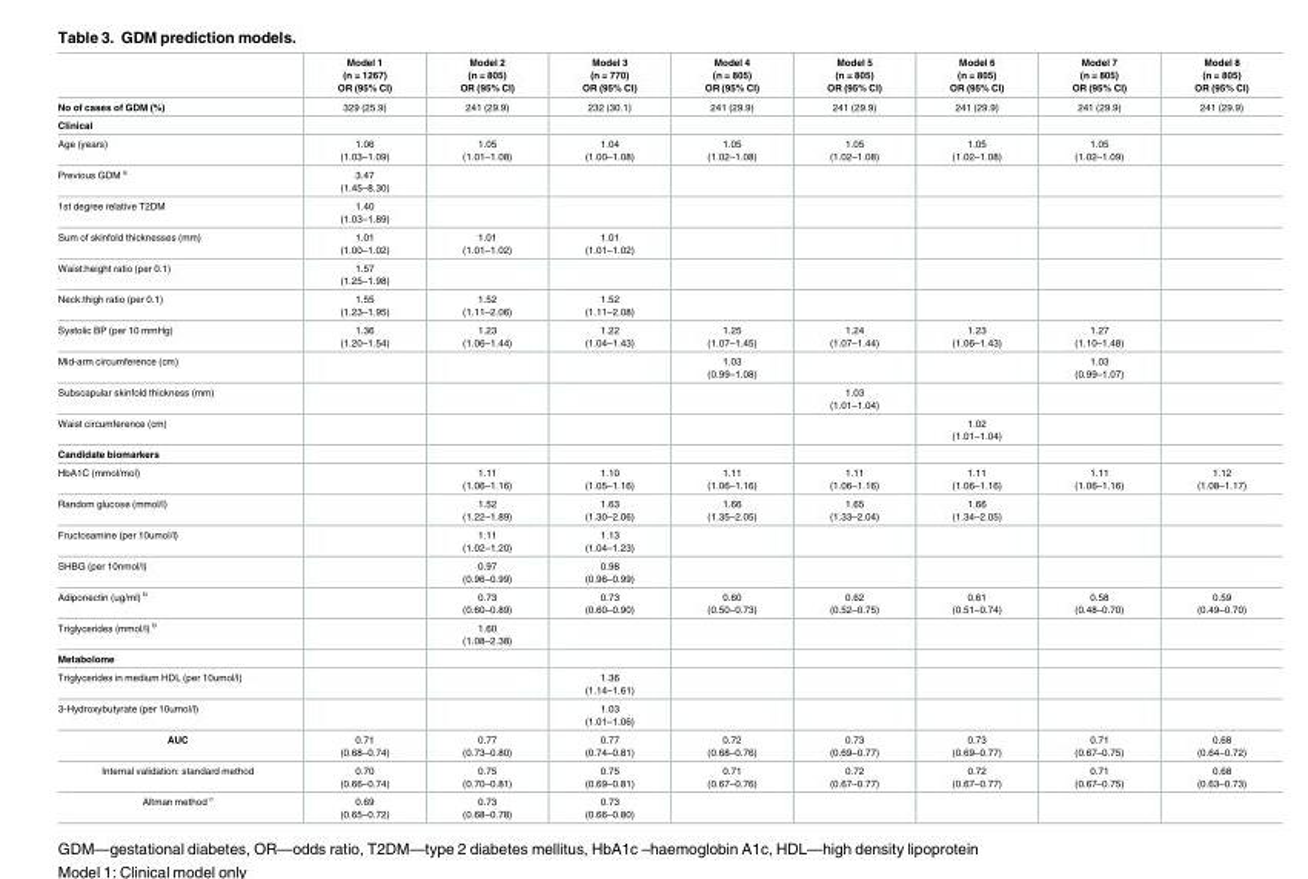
<table><thead><tr><td></td><td>Model 1 (n = 1267) OR (95% CI)</td><td>Model 2 (n = 805) OR (95% CI)</td><td>Model 3 (n = 770) OR (95% CI)</td><td>Model 4 (n = 805) OR (95% CI)</td><td>Model 5 (n = 805) OR (95% CI)</td><td>Model 6 (n = 805) OR (95% CI)</td><td>Model 7 (n = 805) OR (95% CI)</td><td>Model 8 (n = 805) OR (95% CI)</td></tr></thead><tbody><tr><td>No of cases of GDM (%)</td><td>329 (25.9)</td><td>241 (29.9)</td><td>232 (30.1)</td><td>241 (29.9)</td><td>241 (29.9)</td><td>241 (29.9)</td><td>241 (29.9)</td><td>241 (29.9)</td></tr><tr><td colspan="9">Clinical</td></tr><tr><td>Age (years)</td><td>1.06 (1.03–1.09)</td><td>1.05 (1.01–1.08)</td><td>1.04 (1.00–1.08)</td><td>1.05 (1.02–1.08)</td><td>1.05 (1.02–1.08)</td><td>1.05 (1.02–1.08)</td><td>1.05 (1.02–1.09)</td><td></td></tr><tr><td>Previous GDM <sup>a</sup></td><td>3.47 (1.45–8.30)</td><td></td><td></td><td></td><td></td><td></td><td></td><td></td></tr><tr><td>1st degree relative T2DM</td><td>1.40 (1.03–1.89)</td><td></td><td></td><td></td><td></td><td></td><td></td><td></td></tr><tr><td>Sum of skinfold thicknesses (mm)</td><td>1.01 (1.00–1.02)</td><td>1.01 (1.01–1.02)</td><td>1.01 (1.01–1.02)</td><td></td><td></td><td></td><td></td><td></td></tr><tr><td>Waist:height ratio (per 0.1)</td><td>1.57 (1.25–1.98)</td><td></td><td></td><td></td><td></td><td></td><td></td><td></td></tr><tr><td>Neck:thigh ratio (per 0.1)</td><td>1.55 (1.23–1.95)</td><td>1.52 (1.11–2.06)</td><td>1.52 (1.11–2.08)</td><td></td><td></td><td></td><td></td><td></td></tr><tr><td>Systolic BP (per 10 mmHg)</td><td>1.36 (1.20–1.54)</td><td>1.23 (1.06–1.44)</td><td>1.22 (1.04–1.43)</td><td>1.25 (1.07–1.45)</td><td>1.24 (1.07–1.44)</td><td>1.23 (1.06–1.43)</td><td>1.27 (1.10–1.48)</td><td></td></tr><tr><td>Mid-arm circumference (cm)</td><td></td><td></td><td></td><td>1.03 (0.99–1.08)</td><td></td><td></td><td>1.03 (0.99–1.07)</td><td></td></tr><tr><td>Subscapular skinfold thickness (mm)</td><td></td><td></td><td></td><td></td><td>1.03 (1.01–1.04)</td><td></td><td></td><td></td></tr><tr><td>Waist circumference (cm)</td><td></td><td></td><td></td><td></td><td></td><td>1.02 (1.01–1.04)</td><td></td><td></td></tr><tr><td colspan="9">Candidate biomarkers</td></tr><tr><td>HbA1C (mmol/mol)</td><td></td><td>1.11 (1.06–1.16)</td><td>1.10 (1.05–1.16)</td><td>1.11 (1.06–1.16)</td><td>1.11 (1.06–1.16)</td><td>1.11 (1.06–1.16)</td><td>1.11 (1.06–1.16)</td><td>1.12 (1.08–1.17)</td></tr><tr><td>Random glucose (mmol/l)</td><td></td><td>1.52 (1.22–1.89)</td><td>1.63 (1.30–2.06)</td><td>1.66 (1.35–2.05)</td><td>1.65 (1.33–2.04)</td><td>1.66 (1.34–2.05)</td><td></td><td></td></tr><tr><td>Fructosamine (per 10umol/l)</td><td></td><td>1.11 (1.02–1.20)</td><td>1.13 (1.04–1.23)</td><td></td><td></td><td></td><td></td><td></td></tr><tr><td>SHBG (per 10nmol/l)</td><td></td><td>0.97 (0.96–0.99)</td><td>0.98 (0.96–0.99)</td><td></td><td></td><td></td><td></td><td></td></tr><tr><td>Adiponectin (ug/ml) <sup>b</sup></td><td></td><td>0.73 (0.60–0.89)</td><td>0.73 (0.60–0.90)</td><td>0.60 (0.50–0.73)</td><td>0.62 (0.52–0.75)</td><td>0.61 (0.51–0.74)</td><td>0.58 (0.48–0.70)</td><td>0.59 (0.49–0.70)</td></tr><tr><td>Triglycerides (mmol/l) <sup>b</sup></td><td></td><td>1.60 (1.08–2.38)</td><td></td><td></td><td></td><td></td><td></td><td></td></tr><tr><td colspan="9">Metabolome</td></tr><tr><td>Triglycerides in medium HDL (per 10umol/l)</td><td></td><td></td><td>1.36 (1.14–1.61)</td><td></td><td></td><td></td><td></td><td></td></tr><tr><td>3-Hydroxybutyrate (per 10umol/l)</td><td></td><td></td><td>1.03 (1.01–1.06)</td><td></td><td></td><td></td><td></td><td></td></tr><tr><td>AUC</td><td>0.71 (0.68–0.74)</td><td>0.77 (0.73–0.80)</td><td>0.77 (0.74–0.81)</td><td>0.72 (0.68–0.76)</td><td>0.73 (0.69–0.77)</td><td>0.73 (0.69–0.77)</td><td>0.71 (0.67–0.75)</td><td>0.68 (0.64–0.72)</td></tr><tr><td>Internal validation: standard method</td><td>0.70 (0.66–0.74)</td><td>0.75 (0.70–0.81)</td><td>0.75 (0.69–0.81)</td><td>0.71 (0.67–0.76)</td><td>0.72 (0.67–0.77)</td><td>0.72 (0.67–0.77)</td><td>0.71 (0.67–0.75)</td><td>0.68 (0.63–0.73)</td></tr><tr><td>Altman method <sup>c</sup></td><td>0.69 (0.65–0.72)</td><td>0.73 (0.68–0.78)</td><td>0.73 (0.66–0.80)</td><td></td><td></td><td></td><td></td><td></td></tr></tbody></table>